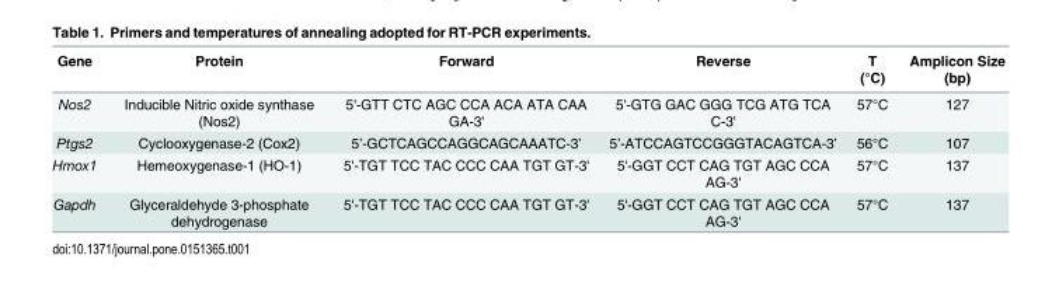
<table><thead><tr><td>Gene</td><td>Protein</td><td>Forward</td><td>Reverse</td><td>T (°C)</td><td>Amplicon Size (bp)</td></tr></thead><tbody><tr><td>Nos2</td><td>Inducible Nitric oxide synthase (Nos2)</td><td>5&#x27;-GTT CTC AGC CCA ACA ATA CAA GA-3&#x27;</td><td>5&#x27;-GTG GAC GGG TCG ATG TCA C-3&#x27;</td><td>57°C</td><td>127</td></tr><tr><td>Ptgs2</td><td>Cyclooxygenase-2 (Cox2)</td><td>5’-GCTCAGCCAGGCAGCAAATC-3’</td><td>5’-ATCCAGTCCGGGTACAGTCA-3’</td><td>56°C</td><td>107</td></tr><tr><td>Hmox1</td><td>Hemeoxygenase-1 (HO-1)</td><td>5&#x27;-TGT TCC TAC CCC CAA TGT GT-3&#x27;</td><td>5&#x27;-GGT CCT CAG TGT AGC CCA AG-3&#x27;</td><td>57°C</td><td>137</td></tr><tr><td>Gapdh</td><td>Glyceraldehyde 3-phosphate dehydrogenase</td><td>5&#x27;-TGT TCC TAC CCC CAA TGT GT-3&#x27;</td><td>5&#x27;-GGT CCT CAG TGT AGC CCA AG-3&#x27;</td><td>57°C</td><td>137</td></tr></tbody></table>